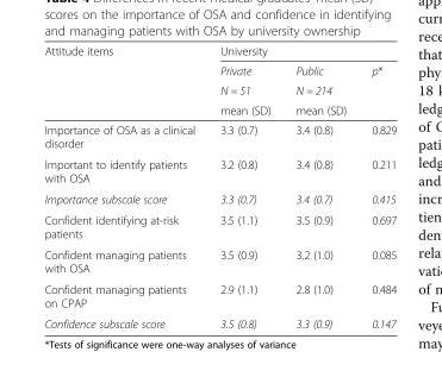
<table><thead><tr><td rowspan="4">Attitude items</td><td colspan="3">University</td></tr><tr><td rowspan="3">Private N = 51 mean (SD)</td><td rowspan="3">Public N = 214 mean (SD)</td><td rowspan="3">p*</td></tr><tr></tr><tr></tr></thead><tbody><tr><td>Importance of OSA as a clinical disorder</td><td>3.3 (0.7)</td><td>3.4 (0.8)</td><td>0.829</td></tr><tr><td>Important to identify patients with OSA</td><td>3.2 (0.8)</td><td>3.4 (0.8)</td><td>0.211</td></tr><tr><td>Importance subscale score</td><td>3.3 (0.7)</td><td>3.4 (0.7)</td><td>0.415</td></tr><tr><td>Confident identifying at-risk patients</td><td>3.5 (1.1)</td><td>3.5 (0.9)</td><td>0.697</td></tr><tr><td>Confident managing patients with OSA</td><td>3.5 (0.9)</td><td>3.2 (1.0)</td><td>0.085</td></tr><tr><td>Confident managing patients on CPAP</td><td>2.9 (1.1)</td><td>2.8 (1.0)</td><td>0.484</td></tr><tr><td>Confidence subscale score</td><td>3.5 (0.8)</td><td>3.3 (0.9)</td><td>0.147</td></tr></tbody></table>